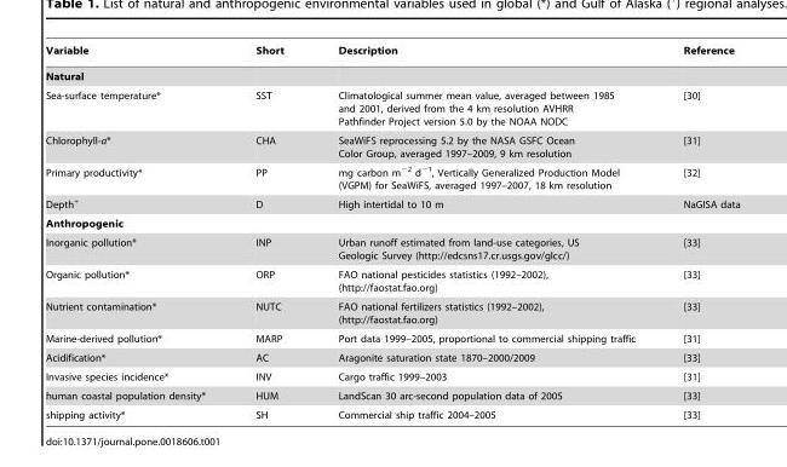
<table><thead><tr><td>Variable</td><td>Short</td><td>Description</td><td>Reference</td></tr></thead><tbody><tr><td colspan="4">Natural</td></tr><tr><td>Sea-surface temperature*</td><td>SST</td><td>Climatological summer mean value, averaged between 1985 and 2001, derived from the 4 km resolution AVHRR Pathfinder Project version 5.0 by the NOAA NODC</td><td>[30]</td></tr><tr><td>Chlorophyll-a*</td><td>CHA</td><td>SeaWiFS reprocessing 5.2 by the NASA GSFC Ocean Color Group, averaged 1997–2009, 9 km resolution</td><td>[31]</td></tr><tr><td>Primary productivity*</td><td>PP</td><td>mg carbon m<sup>−2</sup> d<sup>−1</sup>, Vertically Generalized Production Model (VGPM) for SeaWiFS, averaged 1997–2007, 18 km resolution</td><td>[32]</td></tr><tr><td>Depth<sup>+</sup></td><td>D</td><td>High intertidal to 10 m</td><td>NaGISA data</td></tr><tr><td colspan="4">Anthropogenic</td></tr><tr><td>Inorganic pollution*</td><td>INP</td><td>Urban runoff estimated from land-use categories, US Geologic Survey (http://edcsns17.cr.usgs.gov/glcc/)</td><td>[33]</td></tr><tr><td>Organic pollution*</td><td>ORP</td><td>FAO national pesticides statistics (1992–2002), (http://faostat.fao.org)</td><td>[33]</td></tr><tr><td>Nutrient contamination*</td><td>NUTC</td><td>FAO national fertilizers statistics (1992–2002), (http://faostat.fao.org)</td><td>[33]</td></tr><tr><td>Marine-derived pollution*</td><td>MARP</td><td>Port data 1999–2005, proportional to commercial shipping traffic</td><td>[31]</td></tr><tr><td>Acidification*</td><td>AC</td><td>Aragonite saturation state 1870–2000/2009</td><td>[33]</td></tr><tr><td>Invasive species incidence*</td><td>INV</td><td>Cargo traffic 1999–2003</td><td>[31]</td></tr><tr><td>human coastal population density*</td><td>HUM</td><td>LandScan 30 arc-second population data of 2005</td><td>[33]</td></tr><tr><td>shipping activity*</td><td>SH</td><td>Commercial ship traffic 2004–2005</td><td>[33]</td></tr></tbody></table>